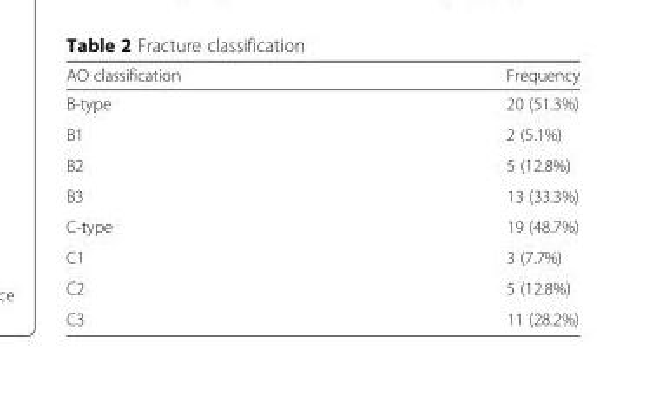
<table><thead><tr><td>AO classification</td><td>Frequency</td></tr></thead><tbody><tr><td>B-type</td><td>20 (51.3%)</td></tr><tr><td>B1</td><td>2 (5.1%)</td></tr><tr><td>B2</td><td>5 (12.8%)</td></tr><tr><td>B3</td><td>13 (33.3%)</td></tr><tr><td>C-type</td><td>19 (48.7%)</td></tr><tr><td>C1</td><td>3 (7.7%)</td></tr><tr><td>C2</td><td>5 (12.8%)</td></tr><tr><td>C3</td><td>11 (28.2%)</td></tr></tbody></table>